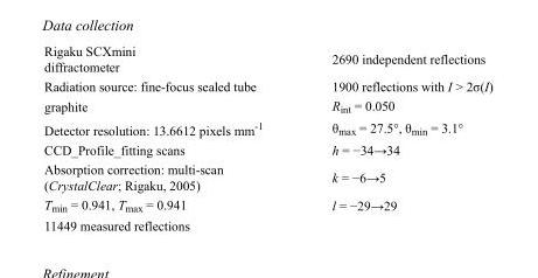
<table><tbody><tr><td>Rigaku SCXmini diffractometer</td><td>2690 independent reflections</td></tr><tr><td>Radiation source: fine-focus sealed tube</td><td>1900 reflections with I &gt; 2σ(I)</td></tr><tr><td>graphite</td><td>R<sub>int</sub> = 0.050</td></tr><tr><td>Detector resolution: 13.6612 pixels mm<sup>-1</sup></td><td>θ<sub>max</sub> = 27.5°, θ<sub>min</sub> = 3.1°</td></tr><tr><td>CCD_Profile_fitting scans</td><td>h = −34→34</td></tr><tr><td>Absorption correction: multi-scan (CrystalClear; Rigaku, 2005)</td><td>k = −6→5</td></tr><tr><td>T<sub>min</sub> = 0.941, T<sub>max</sub> = 0.941</td><td>l = −29→29</td></tr><tr><td>11449 measured reflections</td><td></td></tr></tbody></table>